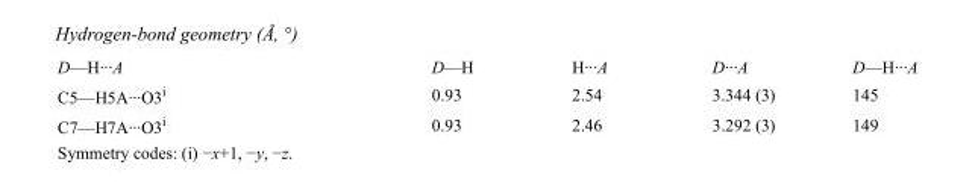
<table><tbody><tr><td>D—H···A</td><td>D—H</td><td>H···A</td><td>D···A</td><td>D—H···A</td></tr><tr><td>C5—H5A···O3<sup>i</sup></td><td>0.93</td><td>2.54</td><td>3.344 (3)</td><td>145</td></tr><tr><td>C7—H7A···O3<sup>i</sup></td><td>0.93</td><td>2.46</td><td>3.292 (3)</td><td>149</td></tr></tbody></table>